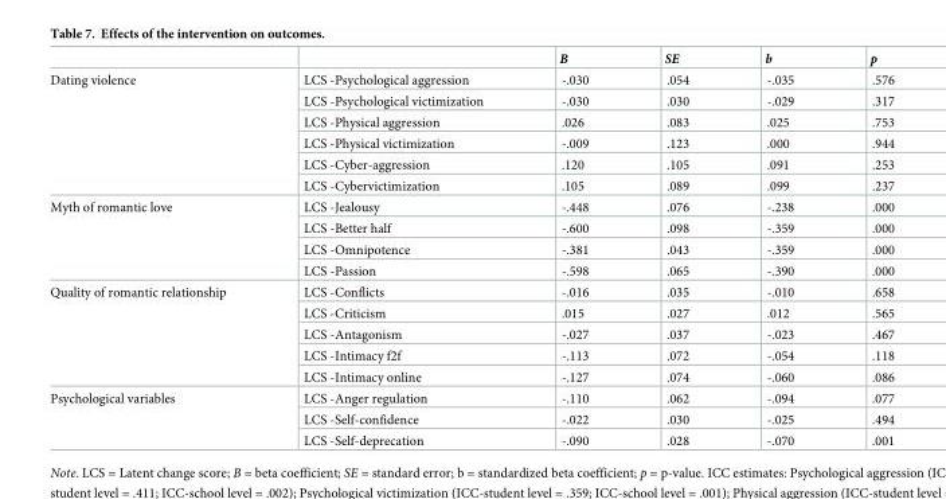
<table><thead><tr><td></td><td></td><td>B</td><td>SE</td><td>b</td><td>p</td></tr></thead><tbody><tr><td rowspan="6">Dating violence</td><td>LCS -Psychological aggression</td><td>-.030</td><td>.054</td><td>-.035</td><td>.576</td></tr><tr><td>LCS -Psychological victimization</td><td>-.030</td><td>.030</td><td>-.029</td><td>.317</td></tr><tr><td>LCS -Physical aggression</td><td>.026</td><td>.083</td><td>.025</td><td>.753</td></tr><tr><td>LCS -Physical victimization</td><td>-.009</td><td>.123</td><td>.000</td><td>.944</td></tr><tr><td>LCS -Cyber-aggression</td><td>.120</td><td>.105</td><td>.091</td><td>.253</td></tr><tr><td>LCS -Cybervictimization</td><td>.105</td><td>.089</td><td>.099</td><td>.237</td></tr><tr><td rowspan="4">Myth of romantic love</td><td>LCS -Jealousy</td><td>-.448</td><td>.076</td><td>-.238</td><td>.000</td></tr><tr><td>LCS -Better half</td><td>-.600</td><td>.098</td><td>-.359</td><td>.000</td></tr><tr><td>LCS -Omnipotence</td><td>-.381</td><td>.043</td><td>-.359</td><td>.000</td></tr><tr><td>LCS -Passion</td><td>-.598</td><td>.065</td><td>-.390</td><td>.000</td></tr><tr><td rowspan="5">Quality of romantic relationship</td><td>LCS -Conflicts</td><td>-.016</td><td>.035</td><td>-.010</td><td>.658</td></tr><tr><td>LCS -Criticism</td><td>.015</td><td>.027</td><td>.012</td><td>.565</td></tr><tr><td>LCS -Antagonism</td><td>-.027</td><td>.037</td><td>-.023</td><td>.467</td></tr><tr><td>LCS -Intimacy f2f</td><td>-.113</td><td>.072</td><td>-.054</td><td>.118</td></tr><tr><td>LCS -Intimacy online</td><td>-.127</td><td>.074</td><td>-.060</td><td>.086</td></tr><tr><td rowspan="3">Psychological variables</td><td>LCS -Anger regulation</td><td>-.110</td><td>.062</td><td>-.094</td><td>.077</td></tr><tr><td>LCS -Self-confidence</td><td>-.022</td><td>.030</td><td>-.025</td><td>.494</td></tr><tr><td>LCS -Self-deprecation</td><td>-.090</td><td>.028</td><td>-.070</td><td>.001</td></tr></tbody></table>